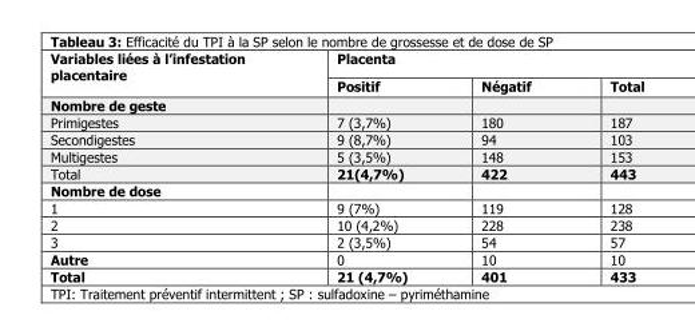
<table><thead><tr><td rowspan="2">Variables liées à l’infestation placentaire</td><td colspan="3">Placenta</td></tr><tr><td>Positif</td><td>Négatif</td><td>Total</td></tr></thead><tbody><tr><td colspan="4">Nombre de geste</td></tr><tr><td>Primigestes</td><td>7 (3,7%)</td><td>180</td><td>187</td></tr><tr><td>Secondigestes</td><td>9 (8,7%)</td><td>94</td><td>103</td></tr><tr><td>Multigestes</td><td>5 (3,5%)</td><td>148</td><td>153</td></tr><tr><td>Total</td><td>21(4,7%)</td><td>422</td><td>443</td></tr><tr><td colspan="4">Nombre de dose</td></tr><tr><td>1</td><td>9 (7%)</td><td>119</td><td>128</td></tr><tr><td>2</td><td>10 (4,2%)</td><td>228</td><td>238</td></tr><tr><td>3</td><td>2 (3,5%)</td><td>54</td><td>57</td></tr><tr><td>Autre</td><td>0</td><td>10</td><td>10</td></tr><tr><td>Total</td><td>21 (4,7%)</td><td>401</td><td>433</td></tr></tbody></table>